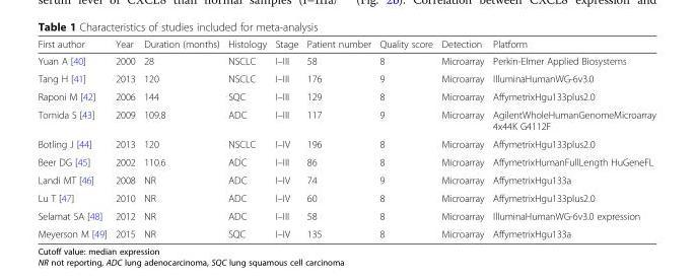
<table><thead><tr><td>First author</td><td>Year</td><td>Duration (months)</td><td>Histology</td><td>Stage</td><td>Patient number</td><td>Quality score</td><td>Detection</td><td>Platform</td></tr></thead><tbody><tr><td>Yuan A [40]</td><td>2000</td><td>28</td><td>NSCLC</td><td>I–III</td><td>58</td><td>8</td><td>Microarray</td><td>Perkin-Elmer Applied Biosystems</td></tr><tr><td>Tang H [41]</td><td>2013</td><td>120</td><td>NSCLC</td><td>I–III</td><td>176</td><td>9</td><td>Microarray</td><td>IlluminaHumanWG-6v3.0</td></tr><tr><td>Raponi M [42]</td><td>2006</td><td>144</td><td>SQC</td><td>I–III</td><td>129</td><td>8</td><td>Microarray</td><td>AffymetrixHgu133plus2.0</td></tr><tr><td>Tomida S [43]</td><td>2009</td><td>109.8</td><td>ADC</td><td>I–III</td><td>117</td><td>9</td><td>Microarray</td><td>AgilentWholeHumanGenomeMicroarray 4x44K G4112F</td></tr><tr><td>Botling J [44]</td><td>2013</td><td>120</td><td>NSCLC</td><td>I–IV</td><td>196</td><td>8</td><td>Microarray</td><td>AffymetrixHgu133plus2.0</td></tr><tr><td>Beer DG [45]</td><td>2002</td><td>110.6</td><td>ADC</td><td>I–III</td><td>86</td><td>8</td><td>Microarray</td><td>AffymetrixHumanFullLength HuGeneFL</td></tr><tr><td>Landi MT [46]</td><td>2008</td><td>NR</td><td>ADC</td><td>I–IV</td><td>74</td><td>9</td><td>Microarray</td><td>AffymetrixHgu133a</td></tr><tr><td>Lu T [47]</td><td>2010</td><td>NR</td><td>ADC</td><td>I–IV</td><td>60</td><td>8</td><td>Microarray</td><td>AffymetrixHgu133plus2.0</td></tr><tr><td>Selamat SA [48]</td><td>2012</td><td>NR</td><td>ADC</td><td>I–III</td><td>58</td><td>8</td><td>Microarray</td><td>IlluminaHumanWG-6v3.0 expression</td></tr><tr><td>Meyerson M [49]</td><td>2015</td><td>NR</td><td>SQC</td><td>I–IV</td><td>135</td><td>8</td><td>Microarray</td><td>AffymetrixHgu133a</td></tr></tbody></table>